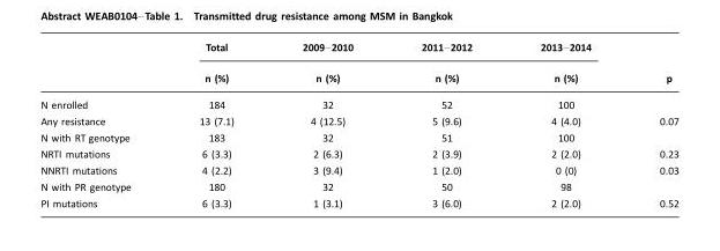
<table><thead><tr><td rowspan="2"></td><td rowspan="2">Total n (%)</td><td rowspan="2">2009–2010 n (%)</td><td rowspan="2">2011–2012 n (%)</td><td rowspan="2">2013–2014 n (%)</td><td rowspan="2">p</td></tr><tr></tr></thead><tbody><tr><td>N enrolled</td><td>184</td><td>32</td><td>52</td><td>100</td><td></td></tr><tr><td>Any resistance</td><td>13 (7.1)</td><td>4 (12.5)</td><td>5 (9.6)</td><td>4 (4.0)</td><td>0.07</td></tr><tr><td>N with RT genotype</td><td>183</td><td>32</td><td>51</td><td>100</td><td></td></tr><tr><td>NRTI mutations</td><td>6 (3.3)</td><td>2 (6.3)</td><td>2 (3.9)</td><td>2 (2.0)</td><td>0.23</td></tr><tr><td>NNRTI mutations</td><td>4 (2.2)</td><td>3 (9.4)</td><td>1 (2.0)</td><td>0 (0)</td><td>0.03</td></tr><tr><td>N with PR genotype</td><td>180</td><td>32</td><td>50</td><td>98</td><td></td></tr><tr><td>PI mutations</td><td>6 (3.3)</td><td>1 (3.1)</td><td>3 (6.0)</td><td>2 (2.0)</td><td>0.52</td></tr></tbody></table>